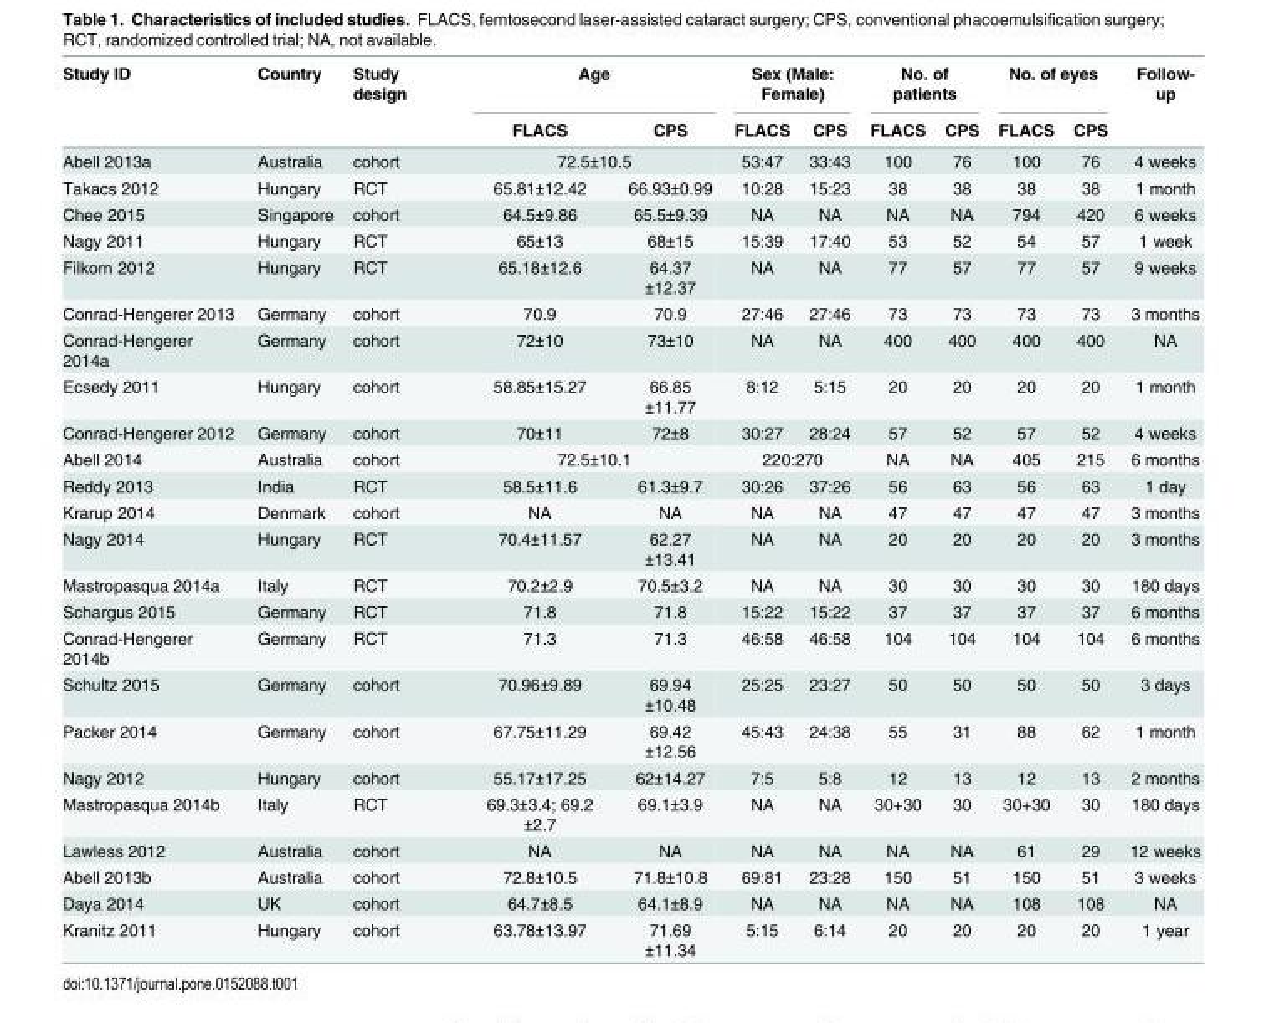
<table><thead><tr><td rowspan="2">Study ID</td><td rowspan="2">Country</td><td rowspan="2">Study design</td><td colspan="2">Age</td><td colspan="2">Sex (Male: Female)</td><td colspan="2">No. of patients</td><td colspan="2">No. of eyes</td><td rowspan="2">Follow- up</td></tr><tr><td>FLACS</td><td>CPS</td><td>FLACS</td><td>CPS</td><td>FLACS</td><td>CPS</td><td>FLACS</td><td>CPS</td></tr></thead><tbody><tr><td>Abell 2013a</td><td>Australia</td><td>cohort</td><td colspan="2">72.5±10.5</td><td>53:47</td><td>33:43</td><td>100</td><td>76</td><td>100</td><td>76</td><td>4 weeks</td></tr><tr><td>Takacs 2012</td><td>Hungary</td><td>RCT</td><td>65.81±12.42</td><td>66.93±0.99</td><td>10:28</td><td>15:23</td><td>38</td><td>38</td><td>38</td><td>38</td><td>1 month</td></tr><tr><td>Chee 2015</td><td>Singapore</td><td>cohort</td><td>64.5±9.86</td><td>65.5±9.39</td><td>NA</td><td>NA</td><td>NA</td><td>NA</td><td>794</td><td>420</td><td>6 weeks</td></tr><tr><td>Nagy 2011</td><td>Hungary</td><td>RCT</td><td>65±13</td><td>68±15</td><td>15:39</td><td>17:40</td><td>53</td><td>52</td><td>54</td><td>57</td><td>1 week</td></tr><tr><td>Filkorn 2012</td><td>Hungary</td><td>RCT</td><td>65.18±12.6</td><td>64.37 ±12.37</td><td>NA</td><td>NA</td><td>77</td><td>57</td><td>77</td><td>57</td><td>9 weeks</td></tr><tr><td>Conrad-Hengerer 2013</td><td>Germany</td><td>cohort</td><td>70.9</td><td>70.9</td><td>27:46</td><td>27:46</td><td>73</td><td>73</td><td>73</td><td>73</td><td>3 months</td></tr><tr><td>Conrad-Hengerer 2014a</td><td>Germany</td><td>cohort</td><td>72±10</td><td>73±10</td><td>NA</td><td>NA</td><td>400</td><td>400</td><td>400</td><td>400</td><td>NA</td></tr><tr><td>Ecsedy 2011</td><td>Hungary</td><td>cohort</td><td>58.85±15.27</td><td>66.85 ±11.77</td><td>8:12</td><td>5:15</td><td>20</td><td>20</td><td>20</td><td>20</td><td>1 month</td></tr><tr><td>Conrad-Hengerer 2012</td><td>Germany</td><td>cohort</td><td>70±11</td><td>72±8</td><td>30:27</td><td>28:24</td><td>57</td><td>52</td><td>57</td><td>52</td><td>4 weeks</td></tr><tr><td>Abell 2014</td><td>Australia</td><td>cohort</td><td colspan="2">72.5±10.1</td><td colspan="2">220:270</td><td>NA</td><td>NA</td><td>405</td><td>215</td><td>6 months</td></tr><tr><td>Reddy 2013</td><td>India</td><td>RCT</td><td>58.5±11.6</td><td>61.3±9.7</td><td>30:26</td><td>37:26</td><td>56</td><td>63</td><td>56</td><td>63</td><td>1 day</td></tr><tr><td>Krarup 2014</td><td>Denmark</td><td>cohort</td><td>NA</td><td>NA</td><td>NA</td><td>NA</td><td>47</td><td>47</td><td>47</td><td>47</td><td>3 months</td></tr><tr><td>Nagy 2014</td><td>Hungary</td><td>RCT</td><td>70.4±11.57</td><td>62.27 ±13.41</td><td>NA</td><td>NA</td><td>20</td><td>20</td><td>20</td><td>20</td><td>3 months</td></tr><tr><td>Mastropasqua 2014a</td><td>Italy</td><td>RCT</td><td>70.2±2.9</td><td>70.5±3.2</td><td>NA</td><td>NA</td><td>30</td><td>30</td><td>30</td><td>30</td><td>180 days</td></tr><tr><td>Schargus 2015</td><td>Germany</td><td>RCT</td><td>71.8</td><td>71.8</td><td>15:22</td><td>15:22</td><td>37</td><td>37</td><td>37</td><td>37</td><td>6 months</td></tr><tr><td>Conrad-Hengerer 2014b</td><td>Germany</td><td>RCT</td><td>71.3</td><td>71.3</td><td>46:58</td><td>46:58</td><td>104</td><td>104</td><td>104</td><td>104</td><td>6 months</td></tr><tr><td>Schultz 2015</td><td>Germany</td><td>cohort</td><td>70.96±9.89</td><td>69.94 ±10.48</td><td>25:25</td><td>23:27</td><td>50</td><td>50</td><td>50</td><td>50</td><td>3 days</td></tr><tr><td>Packer 2014</td><td>Germany</td><td>cohort</td><td>67.75±11.29</td><td>69.42 ±12.56</td><td>45:43</td><td>24:38</td><td>55</td><td>31</td><td>88</td><td>62</td><td>1 month</td></tr><tr><td>Nagy 2012</td><td>Hungary</td><td>cohort</td><td>55.17±17.25</td><td>62±14.27</td><td>7:5</td><td>5:8</td><td>12</td><td>13</td><td>12</td><td>13</td><td>2 months</td></tr><tr><td>Mastropasqua 2014b</td><td>Italy</td><td>RCT</td><td>69.3±3.4; 69.2 ±2.7</td><td>69.1±3.9</td><td>NA</td><td>NA</td><td>30+30</td><td>30</td><td>30+30</td><td>30</td><td>180 days</td></tr><tr><td>Lawless 2012</td><td>Australia</td><td>cohort</td><td>NA</td><td>NA</td><td>NA</td><td>NA</td><td>NA</td><td>NA</td><td>61</td><td>29</td><td>12 weeks</td></tr><tr><td>Abell 2013b</td><td>Australia</td><td>cohort</td><td>72.8±10.5</td><td>71.8±10.8</td><td>69:81</td><td>23:28</td><td>150</td><td>51</td><td>150</td><td>51</td><td>3 weeks</td></tr><tr><td>Daya 2014</td><td>UK</td><td>cohort</td><td>64.7±8.5</td><td>64.1±8.9</td><td>NA</td><td>NA</td><td>NA</td><td>NA</td><td>108</td><td>108</td><td>NA</td></tr><tr><td>Kranitz 2011</td><td>Hungary</td><td>cohort</td><td>63.78±13.97</td><td>71.69 ±11.34</td><td>5:15</td><td>6:14</td><td>20</td><td>20</td><td>20</td><td>20</td><td>1 year</td></tr></tbody></table>